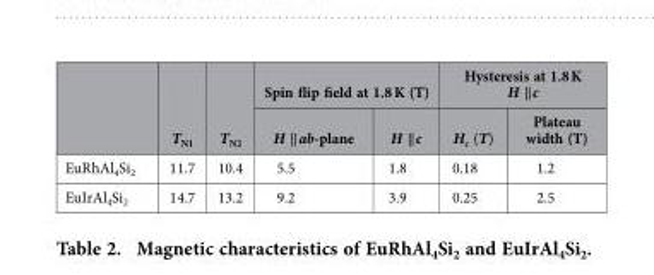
<table><thead><tr><td rowspan="2"></td><td rowspan="2">T<sub>N1</sub></td><td rowspan="2">T<sub>N2</sub></td><td colspan="2">Spin flip field at 1.8 K (T)</td><td colspan="2">Hysteresis at 1.8 K H ‖ c</td></tr><tr><td>H ‖ ab-plane</td><td>H ‖ c</td><td>H<sub>c</sub> (T)</td><td>Plateau width (T)</td></tr></thead><tbody><tr><td>EuRhAl<sub>4</sub>Si<sub>2</sub></td><td>11.7</td><td>10.4</td><td>5.5</td><td>1.8</td><td>0.18</td><td>1.2</td></tr><tr><td>EuIrAl<sub>4</sub>Si<sub>2</sub></td><td>14.7</td><td>13.2</td><td>9.2</td><td>3.9</td><td>0.25</td><td>2.5</td></tr></tbody></table>